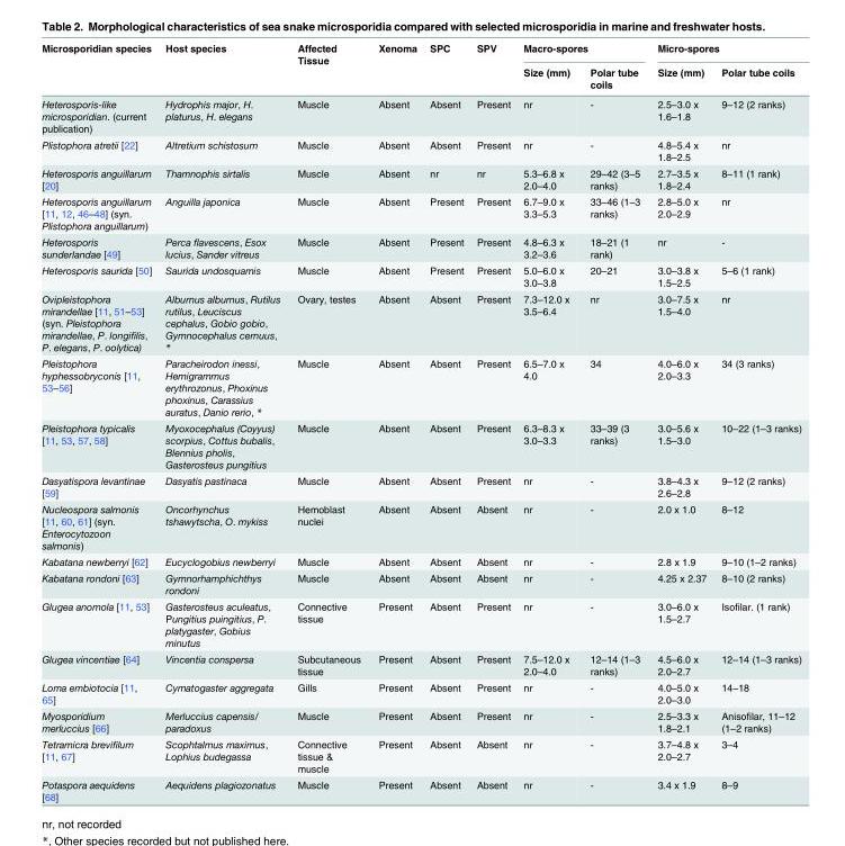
<table><thead><tr><td rowspan="2">Microsporidian species</td><td rowspan="2">Host species</td><td rowspan="2">Affected Tissue</td><td rowspan="2">Xenoma</td><td rowspan="2">SPC</td><td rowspan="2">SPV</td><td colspan="2">Macro-spores</td><td colspan="2">Micro-spores</td></tr><tr><td>Size (mm)</td><td>Polar tube coils</td><td>Size (mm)</td><td>Polar tube coils</td></tr></thead><tbody><tr><td>Heterosporis-like microsporidian. (current publication)</td><td>Hydrophis major, H. platurus, H. elegans</td><td>Muscle</td><td>Absent</td><td>Absent</td><td>Present</td><td>nr</td><td>-</td><td>2.5–3.0 x 1.6–1.8</td><td>9–12 (2 ranks)</td></tr><tr><td>Plistophora atretii [22]</td><td>Altretium schistosum</td><td>Muscle</td><td>Absent</td><td>Absent</td><td>Present</td><td>nr</td><td>-</td><td>4.8–5.4 x 1.8–2.5</td><td>nr</td></tr><tr><td>Heterosporis anguillarum [20]</td><td>Thamnophis sirtalis</td><td>Muscle</td><td>Absent</td><td>nr</td><td>nr</td><td>5.3–6.8 x 2.0–4.0</td><td>29–42 (3–5 ranks)</td><td>2.7–3.5 x 1.8–2.4</td><td>8–11 (1 rank)</td></tr><tr><td>Heterosporis anguillarum [11, 12, 46–48] (syn. Plistophora anguillarum)</td><td>Anguilla japonica</td><td>Muscle</td><td>Absent</td><td>Present</td><td>Present</td><td>6.7–9.0 x 3.3–5.3</td><td>33–46 (1–3 ranks)</td><td>2.8–5.0 x 2.0–2.9</td><td>nr</td></tr><tr><td>Heterosporis sunderlandae [49]</td><td>Perca flavescens, Esox lucius, Sander vitreus</td><td>Muscle</td><td>Absent</td><td>Present</td><td>Present</td><td>4.8–6.3 x 3.2–3.6</td><td>18–21 (1 rank)</td><td>nr</td><td>-</td></tr><tr><td>Heterosporis saurida [50]</td><td>Saurida undosquamis</td><td>Muscle</td><td>Absent</td><td>Present</td><td>Present</td><td>5.0–6.0 x 3.0–3.8</td><td>20–21</td><td>3.0–3.8 x 1.5–2.5</td><td>5–6 (1 rank)</td></tr><tr><td>Ovipleistophora mirandellae [11, 51–53] (syn. Pleistophora mirandellae, P. longifilis, P. elegans, P. oolytica)</td><td>Alburnus alburnus, Rutilus rutilus, Leuciscus cephalus, Gobio gobio, Gymnocephalus cernuus, *</td><td>Ovary, testes</td><td>Absent</td><td>Absent</td><td>Present</td><td>7.3–12.0 x 3.5–6.4</td><td>nr</td><td>3.0–7.5 x 1.5–4.0</td><td>nr</td></tr><tr><td>Pleistophora hyphessobryconis [11, 53–56]</td><td>Paracheirodon inessi, Hemigrammus erythrozonus, Phoxinus phoxinus, Carassius auratus, Danio rerio, *</td><td>Muscle</td><td>Absent</td><td>Absent</td><td>Present</td><td>6.5–7.0 x 4.0</td><td>34</td><td>4.0–6.0 x 2.0–3.3</td><td>34 (3 ranks)</td></tr><tr><td>Pleistophora typicalis [11, 53, 57, 58]</td><td>Myoxocephalus (Coyyus) scorpius, Cottus bubalis, Blennius pholis, Gasterosteus pungitius</td><td>Muscle</td><td>Absent</td><td>Absent</td><td>Present</td><td>6.3–8.3 x 3.0–3.3</td><td>33–39 (3 ranks)</td><td>3.0–5.6 x 1.5–3.0</td><td>10–22 (1–3 ranks)</td></tr><tr><td>Dasyatispora levantinae [59]</td><td>Dasyatis pastinaca</td><td>Muscle</td><td>Absent</td><td>Absent</td><td>Present</td><td>nr</td><td>-</td><td>3.8–4.3 x 2.6–2.8</td><td>9–12 (2 ranks)</td></tr><tr><td>Nucleospora salmonis [11, 60, 61] (syn. Enterocytozoon salmonis)</td><td>Oncorhynchus tshawytscha, O. mykiss</td><td>Hemoblast nuclei</td><td>Absent</td><td>Absent</td><td>Absent</td><td>nr</td><td>-</td><td>2.0 x 1.0</td><td>8–12</td></tr><tr><td>Kabatana newberryi [62]</td><td>Eucyclogobius newberryi</td><td>Muscle</td><td>Absent</td><td>Absent</td><td>Absent</td><td>nr</td><td>-</td><td>2.8 x 1.9</td><td>9–10 (1–2 ranks)</td></tr><tr><td>Kabatana rondoni [63]</td><td>Gymnorhamphichthys rondoni</td><td>Muscle</td><td>Absent</td><td>Absent</td><td>Absent</td><td>nr</td><td>-</td><td>4.25 x 2.37</td><td>8–10 (2 ranks)</td></tr><tr><td>Glugea anomola [11, 53]</td><td>Gasterosteus aculeatus, Pungitius puingitius, P. platygaster, Gobius minutus</td><td>Connective tissue</td><td>Present</td><td>Absent</td><td>Present</td><td>nr</td><td>-</td><td>3.0–6.0 x 1.5–2.7</td><td>Isofilar. (1 rank)</td></tr><tr><td>Glugea vincentiae [64]</td><td>Vincentia conspersa</td><td>Subcutaneous tissue</td><td>Present</td><td>Absent</td><td>Present</td><td>7.5–12.0 x 2.0–4.0</td><td>12–14 (1–3 ranks)</td><td>4.5–6.0 x 2.0–2.7</td><td>12–14 (1–3 ranks)</td></tr><tr><td>Loma embiotocia [11, 65]</td><td>Cymatogaster aggregata</td><td>Gills</td><td>Present</td><td>Absent</td><td>Present</td><td>nr</td><td>-</td><td>4.0–5.0 x 2.0–3.0</td><td>14–18</td></tr><tr><td>Myosporidium merluccius [66]</td><td>Merluccius capensis/ paradoxus</td><td>Muscle</td><td>Present</td><td>Absent</td><td>Present</td><td>nr</td><td>-</td><td>2.5–3.3 x 1.8–2.1</td><td>Anisofilar, 11–12 (1–2 ranks)</td></tr><tr><td>Tetramicra brevifilum [11, 67]</td><td>Scophtalmus maximus, Lophius budegassa</td><td>Connective tissue &amp; muscle</td><td>Present</td><td>Absent</td><td>Absent</td><td>nr</td><td>-</td><td>3.7–4.8 x 2.0–2.7</td><td>3–4</td></tr><tr><td>Potaspora aequidens [68]</td><td>Aequidens plagiozonatus</td><td>Muscle</td><td>Present</td><td>Absent</td><td>Absent</td><td>nr</td><td>-</td><td>3.4 x 1.9</td><td>8–9</td></tr></tbody></table>